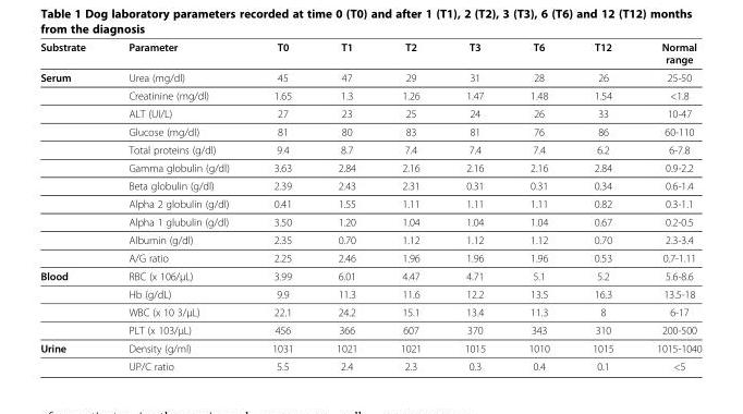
<table><thead><tr><td>Substrate</td><td>Parameter</td><td>T0</td><td>T1</td><td>T2</td><td>T3</td><td>T6</td><td>T12</td><td>Normal range</td></tr></thead><tbody><tr><td rowspan="11">Serum</td><td>Urea (mg/dl)</td><td>45</td><td>47</td><td>29</td><td>31</td><td>28</td><td>26</td><td>25-50</td></tr><tr><td>Creatinine (mg/dl)</td><td>1.65</td><td>1.3</td><td>1.26</td><td>1.47</td><td>1.48</td><td>1.54</td><td>&lt;1.8</td></tr><tr><td>ALT (UI/L)</td><td>27</td><td>23</td><td>25</td><td>24</td><td>26</td><td>33</td><td>10-47</td></tr><tr><td>Glucose (mg/dl)</td><td>81</td><td>80</td><td>83</td><td>81</td><td>76</td><td>86</td><td>60-110</td></tr><tr><td>Total proteins (g/dl)</td><td>9.4</td><td>8.7</td><td>7.4</td><td>7.4</td><td>7.4</td><td>6.2</td><td>6-7.8</td></tr><tr><td>Gamma globulin (g/dl)</td><td>3.63</td><td>2.84</td><td>2.16</td><td>2.16</td><td>2.16</td><td>2.84</td><td>0.9-2.2</td></tr><tr><td>Beta globulin (g/dl)</td><td>2.39</td><td>2.43</td><td>2.31</td><td>0.31</td><td>0.31</td><td>0.34</td><td>0.6-1.4</td></tr><tr><td>Alpha 2 globulin (g/dl)</td><td>0.41</td><td>1.55</td><td>1.11</td><td>1.11</td><td>1.11</td><td>0.82</td><td>0.3-1.1</td></tr><tr><td>Alpha 1 glubulin (g/dl)</td><td>3.50</td><td>1.20</td><td>1.04</td><td>1.04</td><td>1.04</td><td>0.67</td><td>0.2-0.5</td></tr><tr><td>Albumin (g/dl)</td><td>2.35</td><td>0.70</td><td>1.12</td><td>1.12</td><td>1.12</td><td>0.70</td><td>2.3-3.4</td></tr><tr><td>A/G ratio</td><td>2.25</td><td>2.46</td><td>1.96</td><td>1.96</td><td>1.96</td><td>0.53</td><td>0.7-1.11</td></tr><tr><td rowspan="4">Blood</td><td>RBC (x 106/μL)</td><td>3.99</td><td>6.01</td><td>4.47</td><td>4.71</td><td>5.1</td><td>5.2</td><td>5.6-8.6</td></tr><tr><td>Hb (g/dL)</td><td>9.9</td><td>11.3</td><td>11.6</td><td>12.2</td><td>13.5</td><td>16.3</td><td>13.5-18</td></tr><tr><td>WBC (x 10 3/μL)</td><td>22.1</td><td>24.2</td><td>15.1</td><td>13.4</td><td>11.3</td><td>8</td><td>6-17</td></tr><tr><td>PLT (x 103/μL)</td><td>456</td><td>366</td><td>607</td><td>370</td><td>343</td><td>310</td><td>200-500</td></tr><tr><td rowspan="2">Urine</td><td>Density (g/ml)</td><td>1031</td><td>1021</td><td>1021</td><td>1015</td><td>1010</td><td>1015</td><td>1015-1040</td></tr><tr><td>UP/C ratio</td><td>5.5</td><td>2.4</td><td>2.3</td><td>0.3</td><td>0.4</td><td>0.1</td><td>&lt;5</td></tr></tbody></table>